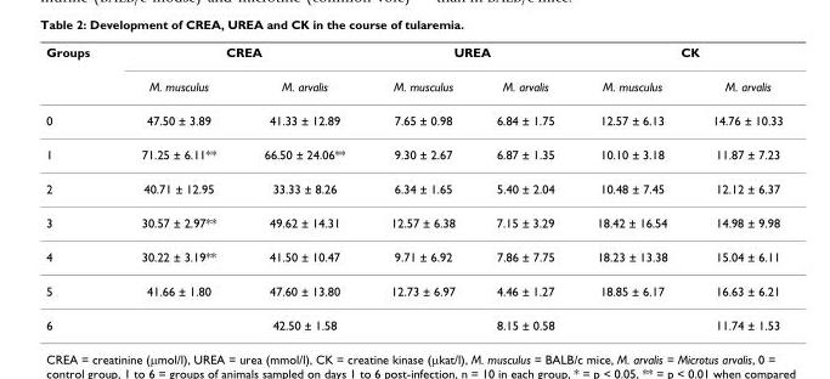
<table><thead><tr><td rowspan="2">Groups</td><td colspan="2">CREA</td><td colspan="2">UREA</td><td colspan="2">CK</td></tr><tr><td>M. musculus</td><td>M. arvalis</td><td>M. musculus</td><td>M. arvalis</td><td>M. musculus</td><td>M. arvalis</td></tr></thead><tbody><tr><td>0</td><td>47.50 ± 3.89</td><td>41.33 ± 12.89</td><td>7.65 ± 0.98</td><td>6.84 ± 1.75</td><td>12.57 ± 6.13</td><td>14.76 ± 10.33</td></tr><tr><td>1</td><td>71.25 ± 6.11**</td><td>66.50 ± 24.06**</td><td>9.30 ± 2.67</td><td>6.87 ± 1.35</td><td>10.10 ± 3.18</td><td>11.87 ± 7.23</td></tr><tr><td>2</td><td>40.71 ± 12.95</td><td>33.33 ± 8.26</td><td>6.34 ± 1.65</td><td>5.40 ± 2.04</td><td>10.48 ± 7.45</td><td>12.12 ± 6.37</td></tr><tr><td>3</td><td>30.57 ± 2.97**</td><td>49.62 ± 14.31</td><td>12.57 ± 6.38</td><td>7.15 ± 3.29</td><td>18.42 ± 16.54</td><td>14.98 ± 9.98</td></tr><tr><td>4</td><td>30.22 ± 3.19**</td><td>41.50 ± 10.47</td><td>9.71 ± 6.92</td><td>7.86 ± 7.75</td><td>18.23 ± 13.38</td><td>15.04 ± 6.11</td></tr><tr><td>5</td><td>41.66 ± 1.80</td><td>47.60 ± 13.80</td><td>12.73 ± 6.97</td><td>4.46 ± 1.27</td><td>18.85 ± 6.17</td><td>16.63 ± 6.21</td></tr><tr><td>6</td><td></td><td>42.50 ± 1.58</td><td></td><td>8.15 ± 0.58</td><td></td><td>11.74 ± 1.53</td></tr></tbody></table>